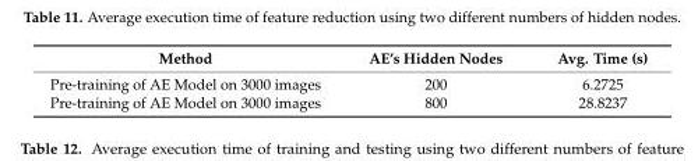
<table><thead><tr><td>Method</td><td>AE’s Hidden Nodes</td><td>Avg. Time (s)</td></tr></thead><tbody><tr><td>Pre-training of AE Model on 3000 images</td><td>200</td><td>6.2725</td></tr><tr><td>Pre-training of AE Model on 3000 images</td><td>800</td><td>28.8237</td></tr></tbody></table>